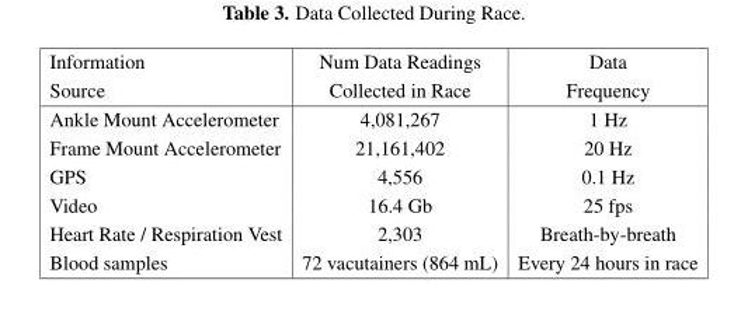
<table><thead><tr><td>Information Source</td><td>Num Data Readings Collected in Race</td><td>Data Frequency</td></tr></thead><tbody><tr><td>Ankle Mount Accelerometer</td><td>4,081,267</td><td>1 Hz</td></tr><tr><td>Frame Mount Accelerometer</td><td>21,161,402</td><td>20 Hz</td></tr><tr><td>GPS</td><td>4,556</td><td>0.1 Hz</td></tr><tr><td>Video</td><td>16.4 Gb</td><td>25 fps</td></tr><tr><td>Heart Rate / Respiration Vest</td><td>2,303</td><td>Breath-by-breath</td></tr><tr><td>Blood samples</td><td>72 vacutainers (864 mL)</td><td>Every 24 hours in race</td></tr></tbody></table>